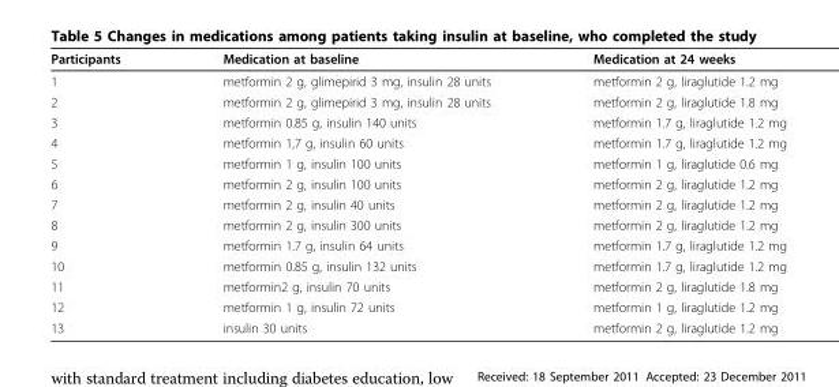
<table><thead><tr><td>Participants</td><td>Medication at baseline</td><td>Medication at 24 weeks</td></tr></thead><tbody><tr><td>1</td><td>metformin 2 g, glimepirid 3 mg, insulin 28 units</td><td>metformin 2 g, liraglutide 1.2 mg</td></tr><tr><td>2</td><td>metformin 2 g, glimepirid 3 mg, insulin 28 units</td><td>metformin 2 g, liraglutide 1.8 mg</td></tr><tr><td>3</td><td>metformin 0.85 g, insulin 140 units</td><td>metformin 1.7 g, liraglutide 1.2 mg</td></tr><tr><td>4</td><td>metformin 1,7 g, insulin 60 units</td><td>metformin 1.7 g, liraglutide 1.2 mg</td></tr><tr><td>5</td><td>metformin 1 g, insulin 100 units</td><td>metformin 1 g, liraglutide 0.6 mg</td></tr><tr><td>6</td><td>metformin 2 g, insulin 100 units</td><td>metformin 2 g, liraglutide 1.2 mg</td></tr><tr><td>7</td><td>metformin 2 g, insulin 40 units</td><td>metformin 2 g, liraglutide 1.2 mg</td></tr><tr><td>8</td><td>metformin 2 g, insulin 300 units</td><td>metformin 2 g, liraglutide 1.2 mg</td></tr><tr><td>9</td><td>metformin 1.7 g, insulin 64 units</td><td>metformin 1.7 g, liraglutide 1.2 mg</td></tr><tr><td>10</td><td>metformin 0.85 g, insulin 132 units</td><td>metformin 1.7 g, liraglutide 1.2 mg</td></tr><tr><td>11</td><td>metformin2 g, insulin 70 units</td><td>metformin 2 g, liraglutide 1.8 mg</td></tr><tr><td>12</td><td>metformin 1 g, insulin 72 units</td><td>metformin 1 g, liraglutide 1.2 mg</td></tr><tr><td>13</td><td>insulin 30 units</td><td>metformin 2 g, liraglutide 1.2 mg</td></tr></tbody></table>